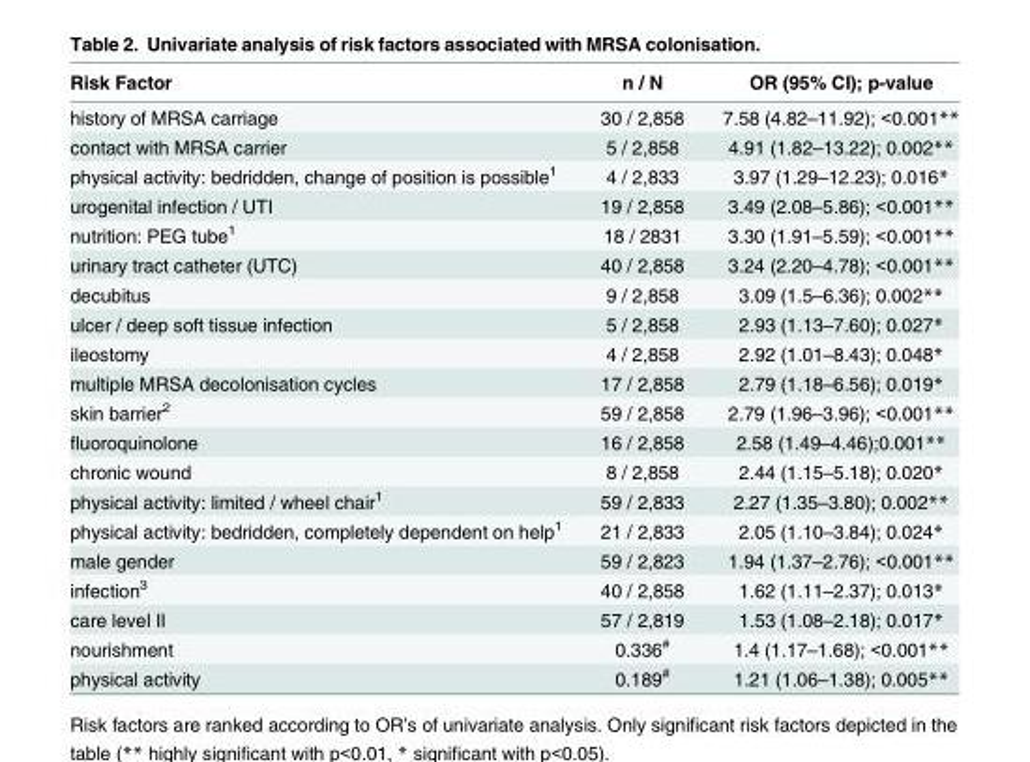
<table><thead><tr><td>Risk Factor</td><td>n / N</td><td>OR (95% CI); p-value</td></tr></thead><tbody><tr><td>history of MRSA carriage</td><td>30 / 2,858</td><td>7.58 (4.82–11.92); &lt;0.001**</td></tr><tr><td>contact with MRSA carrier</td><td>5 / 2,858</td><td>4.91 (1.82–13.22); 0.002**</td></tr><tr><td>physical activity: bedridden, change of position is possible<sup>1</sup></td><td>4 / 2,833</td><td>3.97 (1.29–12.23); 0.016*</td></tr><tr><td>urogenital infection / UTI</td><td>19 / 2,858</td><td>3.49 (2.08–5.86); &lt;0.001**</td></tr><tr><td>nutrition: PEG tube<sup>1</sup></td><td>18 / 2831</td><td>3.30 (1.91–5.59); &lt;0.001**</td></tr><tr><td>urinary tract catheter (UTC)</td><td>40 / 2,858</td><td>3.24 (2.20–4.78); &lt;0.001**</td></tr><tr><td>decubitus</td><td>9 / 2,858</td><td>3.09 (1.5–6.36); 0.002**</td></tr><tr><td>ulcer / deep soft tissue infection</td><td>5 / 2,858</td><td>2.93 (1.13–7.60); 0.027*</td></tr><tr><td>ileostomy</td><td>4 / 2,858</td><td>2.92 (1.01–8.43); 0.048*</td></tr><tr><td>multiple MRSA decolonisation cycles</td><td>17 / 2,858</td><td>2.79 (1.18–6.56); 0.019*</td></tr><tr><td>skin barrier<sup>2</sup></td><td>59 / 2,858</td><td>2.79 (1.96–3.96); &lt;0.001**</td></tr><tr><td>fluoroquinolone</td><td>16 / 2,858</td><td>2.58 (1.49–4.46);0.001**</td></tr><tr><td>chronic wound</td><td>8 / 2,858</td><td>2.44 (1.15–5.18); 0.020*</td></tr><tr><td>physical activity: limited / wheel chair<sup>1</sup></td><td>59 / 2,833</td><td>2.27 (1.35–3.80); 0.002**</td></tr><tr><td>physical activity: bedridden, completely dependent on help<sup>1</sup></td><td>21 / 2,833</td><td>2.05 (1.10–3.84); 0.024*</td></tr><tr><td>male gender</td><td>59 / 2,823</td><td>1.94 (1.37–2.76); &lt;0.001**</td></tr><tr><td>infection<sup>3</sup></td><td>40 / 2,858</td><td>1.62 (1.11–2.37); 0.013*</td></tr><tr><td>care level II</td><td>57 / 2,819</td><td>1.53 (1.08–2.18); 0.017*</td></tr><tr><td>nourishment</td><td>0.336<sup>#</sup></td><td>1.4 (1.17–1.68); &lt;0.001**</td></tr><tr><td>physical activity</td><td>0.189<sup>#</sup></td><td>1.21 (1.06–1.38); 0.005**</td></tr></tbody></table>